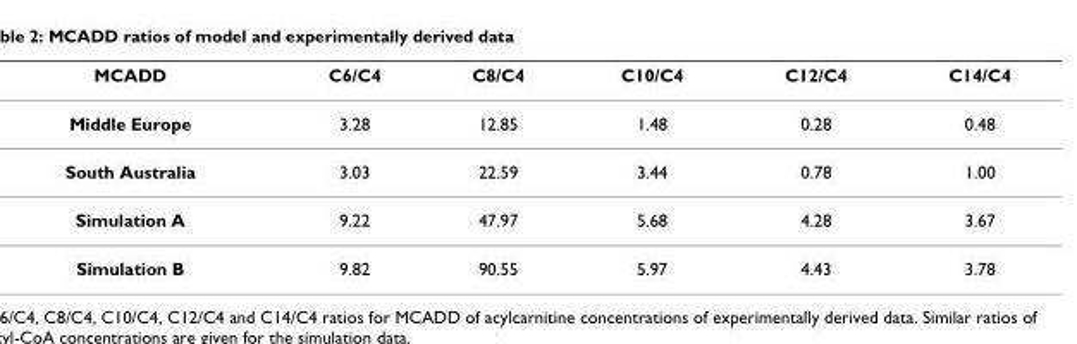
<table><thead><tr><td>MCADD</td><td>C6/C4</td><td>C8/C4</td><td>C10/C4</td><td>C12/C4</td><td>C14/C4</td></tr></thead><tbody><tr><td>Middle Europe</td><td>3.28</td><td>12.85</td><td>1.48</td><td>0.28</td><td>0.48</td></tr><tr><td>South Australia</td><td>3.03</td><td>22.59</td><td>3.44</td><td>0.78</td><td>1.00</td></tr><tr><td>Simulation A</td><td>9.22</td><td>47.97</td><td>5.68</td><td>4.28</td><td>3.67</td></tr><tr><td>Simulation B</td><td>9.82</td><td>90.55</td><td>5.97</td><td>4.43</td><td>3.78</td></tr></tbody></table>